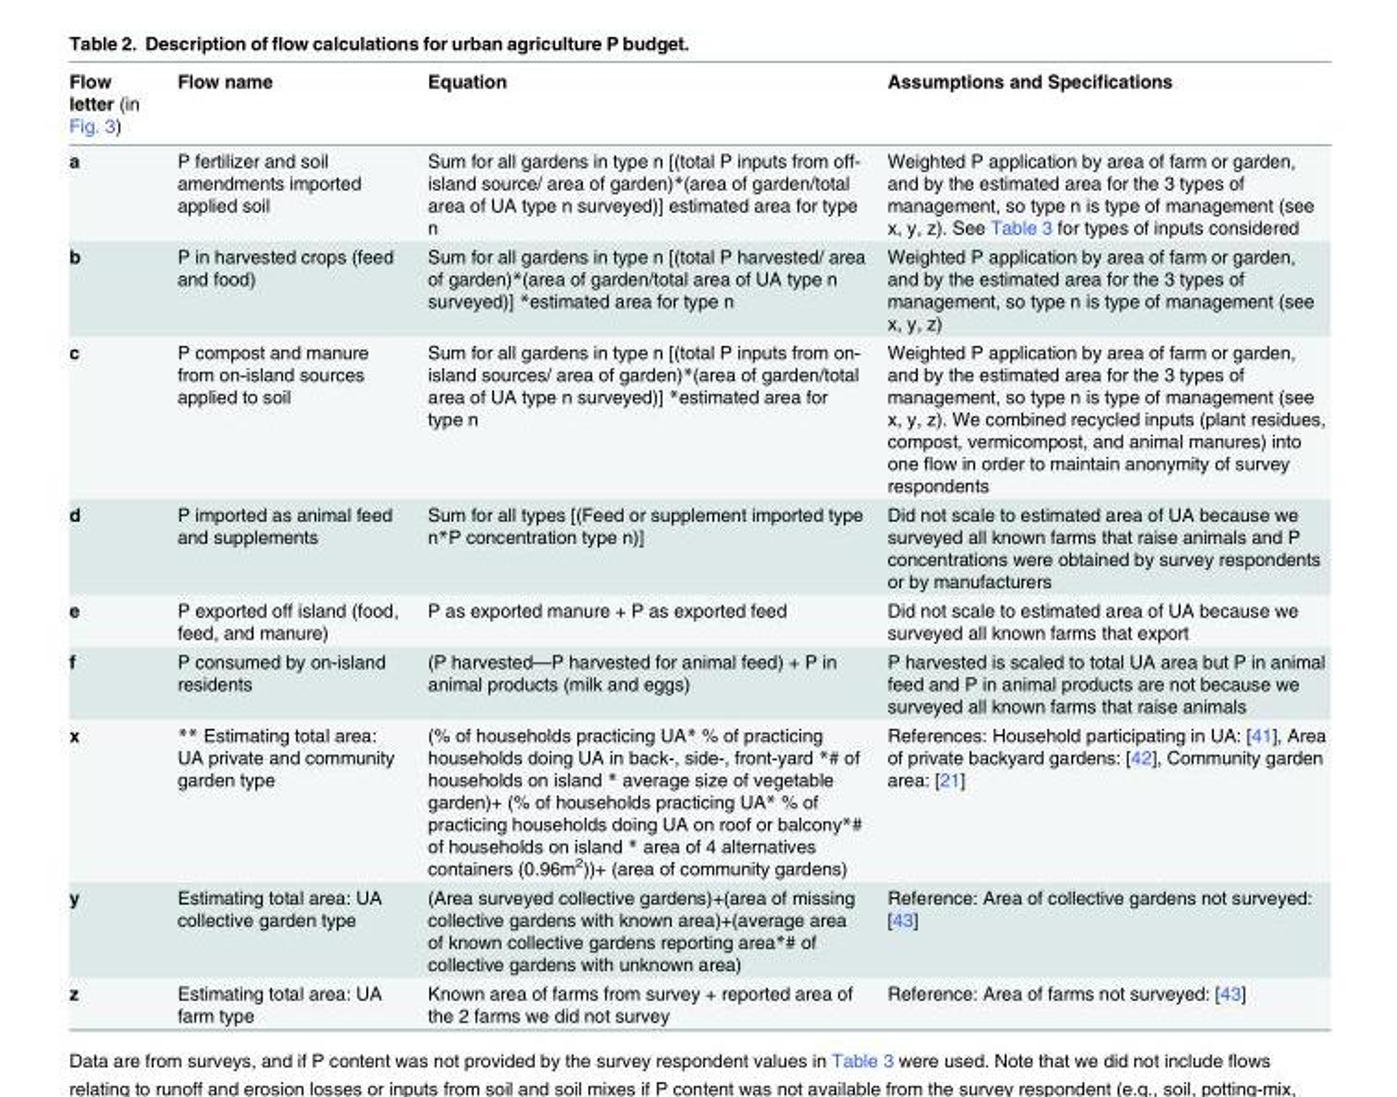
<table><thead><tr><td>Flow letter (in Fig. 3)</td><td>Flow name</td><td>Equation</td><td>Assumptions and Specifications</td></tr></thead><tbody><tr><td>a</td><td>P fertilizer and soil amendments imported applied soil</td><td>Sum for all gardens in type n [(total P inputs from off- island source/ area of garden)*(area of garden/total area of UA type n surveyed)] estimated area for type n</td><td>Weighted P application by area of farm or garden, and by the estimated area for the 3 types of management, so type n is type of management (see x, y, z). See Table 3 for types of inputs considered</td></tr><tr><td>b</td><td>P in harvested crops (feed and food)</td><td>Sum for all gardens in type n [(total P harvested/ area of garden)*(area of garden/total area of UA type n surveyed)] *estimated area for type n</td><td>Weighted P application by area of farm or garden, and by the estimated area for the 3 types of management, so type n is type of management (see x, y, z)</td></tr><tr><td>c</td><td>P compost and manure from on-island sources applied to soil</td><td>Sum for all gardens in type n [(total P inputs from on- island sources/ area of garden)*(area of garden/total area of UA type n surveyed)] *estimated area for type n</td><td>Weighted P application by area of farm or garden, and by the estimated area for the 3 types of management, so type n is type of management (see x, y, z). We combined recycled inputs (plant residues, compost, vermicompost, and animal manures) into one flow in order to maintain anonymity of survey respondents</td></tr><tr><td>d</td><td>P imported as animal feed and supplements</td><td>Sum for all types [(Feed or supplement imported type n*P concentration type n)]</td><td>Did not scale to estimated area of UA because we surveyed all known farms that raise animals and P concentrations were obtained by survey respondents or by manufacturers</td></tr><tr><td>e</td><td>P exported off island (food, feed, and manure)</td><td>P as exported manure + P as exported feed</td><td>Did not scale to estimated area of UA because we surveyed all known farms that export</td></tr><tr><td>f</td><td>P consumed by on-island residents</td><td>(P harvested—P harvested for animal feed) + P in animal products (milk and eggs)</td><td>P harvested is scaled to total UA area but P in animal feed and P in animal products are not because we surveyed all known farms that raise animals</td></tr><tr><td>x</td><td>** Estimating total area: UA private and community garden type</td><td>(% of households practicing UA* % of practicing households doing UA in back-, side-, front-yard *# of households on island * average size of vegetable garden)+ (% of households practicing UA* % of practicing households doing UA on roof or balcony*# of households on island * area of 4 alternatives containers (0.96m<sup>2</sup>))+ (area of community gardens)</td><td>References: Household participating in UA: [41], Area of private backyard gardens: [42], Community garden area: [21]</td></tr><tr><td>y</td><td>Estimating total area: UA collective garden type</td><td>(Area surveyed collective gardens)+(area of missing collective gardens with known area)+(average area of known collective gardens reporting area*# of collective gardens with unknown area)</td><td>Reference: Area of collective gardens not surveyed: [43]</td></tr><tr><td>z</td><td>Estimating total area: UA farm type</td><td>Known area of farms from survey + reported area of the 2 farms we did not survey</td><td>Reference: Area of farms not surveyed: [43]</td></tr></tbody></table>